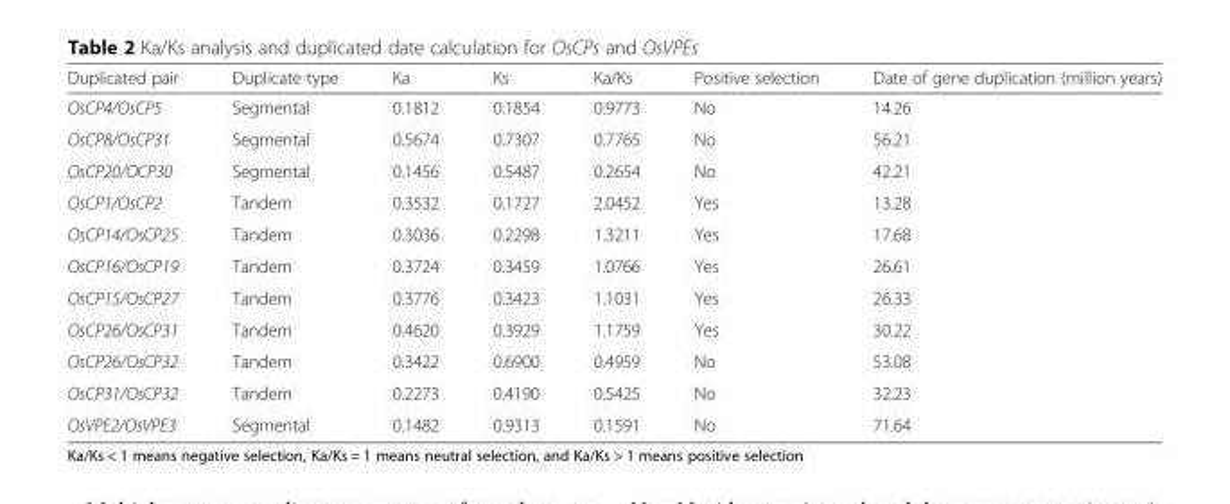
<table><thead><tr><td>Duplicated pair</td><td>Duplicate type</td><td>Ka</td><td>Ks</td><td>Ka/Ks</td><td>Positive selection</td><td>Date of gene duplication (million years)</td></tr></thead><tbody><tr><td>OsCP4/OsCP5</td><td>Segmental</td><td>0.1812</td><td>0.1854</td><td>0.9773</td><td>No</td><td>14.26</td></tr><tr><td>OsCP8/OsCP31</td><td>Segmental</td><td>0.5674</td><td>0.7307</td><td>0.7765</td><td>No</td><td>56.21</td></tr><tr><td>OsCP20/OCP30</td><td>Segmental</td><td>0.1456</td><td>0.5487</td><td>0.2654</td><td>No</td><td>42.21</td></tr><tr><td>OsCP1/OsCP2</td><td>Tandem</td><td>0.3532</td><td>0.1727</td><td>2.0452</td><td>Yes</td><td>13.28</td></tr><tr><td>OsCP14/OsCP25</td><td>Tandem</td><td>0.3036</td><td>0.2298</td><td>1.3211</td><td>Yes</td><td>17.68</td></tr><tr><td>OsCP16/OsCP19</td><td>Tandem</td><td>0.3724</td><td>0.3459</td><td>1.0766</td><td>Yes</td><td>26.61</td></tr><tr><td>OsCP15/OsCP27</td><td>Tandem</td><td>0.3776</td><td>0.3423</td><td>1.1031</td><td>Yes</td><td>26.33</td></tr><tr><td>OsCP26/OsCP31</td><td>Tandem</td><td>0.4620</td><td>0.3929</td><td>1.1759</td><td>Yes</td><td>30.22</td></tr><tr><td>OsCP26/OsCP32</td><td>Tandem</td><td>0.3422</td><td>0.6900</td><td>0.4959</td><td>No</td><td>53.08</td></tr><tr><td>OsCP31/OsCP32</td><td>Tandem</td><td>0.2273</td><td>0.4190</td><td>0.5425</td><td>No</td><td>32.23</td></tr><tr><td>OsVPE2/OsVPE3</td><td>Segmental</td><td>0.1482</td><td>0.9313</td><td>0.1591</td><td>No</td><td>71.64</td></tr></tbody></table>